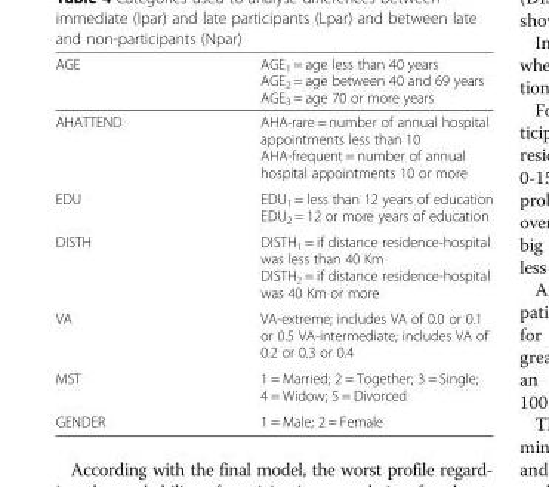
<table><thead><tr><td>AGE</td><td>AGE<sub>1</sub> = age less than 40 years AGE<sub>2</sub> = age between 40 and 69 years AGE<sub>3</sub> = age 70 or more years</td></tr></thead><tbody><tr><td>AHATTEND</td><td>AHA-rare = number of annual hospital appointments less than 10 AHA-frequent = number of annual hospital appointments 10 or more</td></tr><tr><td>EDU</td><td>EDU<sub>1</sub> = less than 12 years of education EDU<sub>2</sub> = 12 or more years of education</td></tr><tr><td>DISTH</td><td>DISTH<sub>1</sub> = if distance residence-hospital was less than 40 Km DISTH<sub>2</sub> = if distance residence-hospital was 40 Km or more</td></tr><tr><td>VA</td><td>VA-extreme; includes VA of 0.0 or 0.1 or 0.5 VA-intermediate; includes VA of 0.2 or 0.3 or 0.4</td></tr><tr><td>MST</td><td>1 = Married; 2 = Together; 3 = Single; 4 = Widow; 5 = Divorced</td></tr><tr><td>GENDER</td><td>1 = Male; 2 = Female</td></tr></tbody></table>